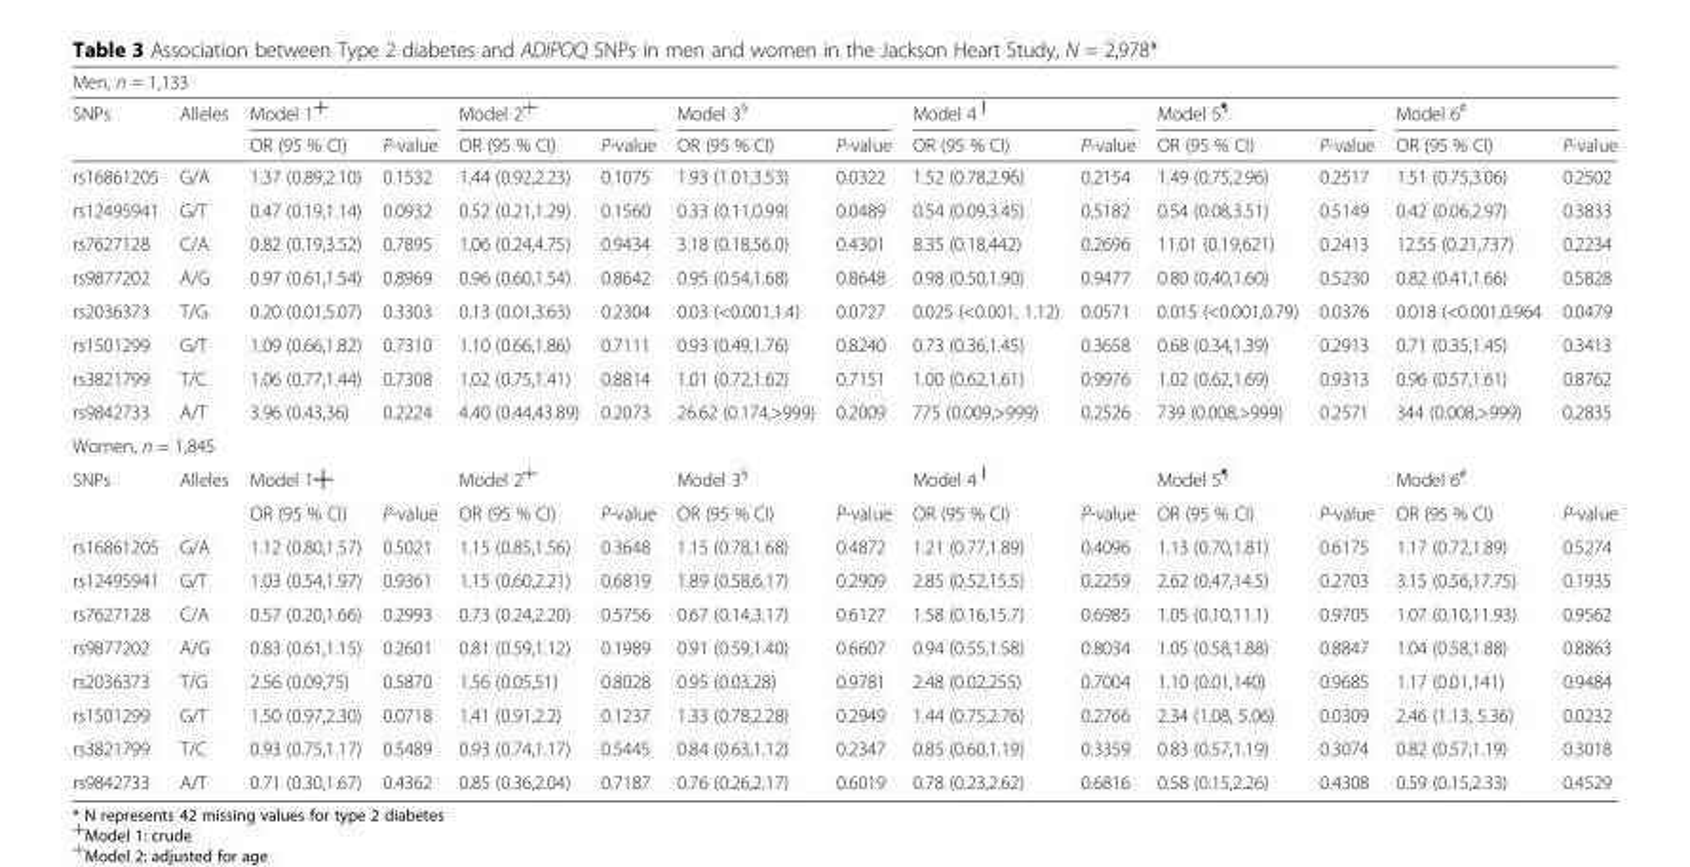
<table><thead><tr><td colspan="14">Men, n = 1,133</td></tr><tr><td rowspan="2">SNPs</td><td rowspan="2">Alleles</td><td colspan="2">Model 1<sup>┼</sup></td><td colspan="2">Model 2<sup>╪</sup></td><td colspan="2">Model 3<sup>§</sup></td><td colspan="2">Model 4<sup>║</sup></td><td colspan="2">Model 5<sup>¶</sup></td><td colspan="2">Model 6<sup>#</sup></td></tr><tr><td>OR (95 % CI)</td><td>P-value</td><td>OR (95 % CI)</td><td>P-value</td><td>OR (95 % CI)</td><td>P-value</td><td>OR (95 % CI)</td><td>P-value</td><td>OR (95 % CI)</td><td>P-value</td><td>OR (95 % CI)</td><td>P-value</td></tr></thead><tbody><tr><td>rs16861205</td><td>G/A</td><td>1.37 (0.89,2.10)</td><td>0.1532</td><td>1.44 (0.92,2.23)</td><td>0.1075</td><td>1.93 (1.01,3.53)</td><td>0.0322</td><td>1.52 (0.78,2.96)</td><td>0.2154</td><td>1.49 (0.75,2.96)</td><td>0.2517</td><td>1.51 (0.75,3.06)</td><td>0.2502</td></tr><tr><td>rs12495941</td><td>G/T</td><td>0.47 (0.19,1.14)</td><td>0.0932</td><td>0.52 (0.21,1.29)</td><td>0.1560</td><td>0.33 (0.11,0.99)</td><td>0.0489</td><td>0.54 (0.09,3.45)</td><td>0.5182</td><td>0.54 (0.08,3.51)</td><td>0.5149</td><td>0.42 (0.06,2.97)</td><td>0.3833</td></tr><tr><td>rs7627128</td><td>C/A</td><td>0.82 (0.19,3.52)</td><td>0.7895</td><td>1.06 (0.24,4.75)</td><td>0.9434</td><td>3.18 (0.18,56.0)</td><td>0.4301</td><td>8.35 (0.18,442)</td><td>0.2696</td><td>11.01 (0.19,621)</td><td>0.2413</td><td>12.55 (0.21,737)</td><td>0.2234</td></tr><tr><td>rs9877202</td><td>A/G</td><td>0.97 (0.61,1.54)</td><td>0.8969</td><td>0.96 (0.60,1.54)</td><td>0.8642</td><td>0.95 (0.54,1.68)</td><td>0.8648</td><td>0.98 (0.50,1.90)</td><td>0.9477</td><td>0.80 (0.40,1.60)</td><td>0.5230</td><td>0.82 (0.41,1.66)</td><td>0.5828</td></tr><tr><td>rs2036373</td><td>T/G</td><td>0.20 (0.01,5.07)</td><td>0.3303</td><td>0.13 (0.01,3.63)</td><td>0.2304</td><td>0.03 (&lt;0.001,1.4)</td><td>0.0727</td><td>0.025 (&lt;0.001, 1.12)</td><td>0.0571</td><td>0.015 (&lt;0.001,0.79)</td><td>0.0376</td><td>0.018 (&lt;0.001,0.964</td><td>0.0479</td></tr><tr><td>rs1501299</td><td>G/T</td><td>1.09 (0.66,1.82)</td><td>0.7310</td><td>1.10 (0.66,1.86)</td><td>0.7111</td><td>0.93 (0.49,1.76)</td><td>0.8240</td><td>0.73 (0.36,1.45)</td><td>0.3658</td><td>0.68 (0.34,1.39)</td><td>0.2913</td><td>0.71 (0.35,1.45)</td><td>0.3413</td></tr><tr><td>rs3821799</td><td>T/C</td><td>1.06 (0.77,1.44)</td><td>0.7308</td><td>1.02 (0.75,1.41)</td><td>0.8814</td><td>1.01 (0.72,1.62)</td><td>0.7151</td><td>1.00 (0.62,1.61)</td><td>0.9976</td><td>1.02 (0.62,1.69)</td><td>0.9313</td><td>0.96 (0.57,1.61)</td><td>0.8762</td></tr><tr><td>rs9842733</td><td>A/T</td><td>3.96 (0.43,36)</td><td>0.2224</td><td>4.40 (0.44,43.89)</td><td>0.2073</td><td>26.62 (0.174,&gt;999)</td><td>0.2009</td><td>775 (0.009,&gt;999)</td><td>0.2526</td><td>739 (0.008,&gt;999)</td><td>0.2571</td><td>344 (0.008,&gt;999)</td><td>0.2835</td></tr><tr><td colspan="14">Women, n = 1,845</td></tr><tr><td rowspan="2">SNPs</td><td>Alleles</td><td colspan="2">Model 1┼</td><td colspan="2">Model 2<sup>╪</sup></td><td colspan="2">Model 3<sup>§</sup></td><td colspan="2">Model 4<sup>║</sup></td><td colspan="2">Model 5<sup>¶</sup></td><td colspan="2">Model 6<sup>#</sup></td></tr><tr><td></td><td>OR (95 % CI)</td><td>P-value</td><td>OR (95 % CI)</td><td>P-value</td><td>OR (95 % CI)</td><td>P-value</td><td>OR (95 % CI)</td><td>P-value</td><td>OR (95 % CI)</td><td>P-value</td><td>OR (95 % CI)</td><td>P-value</td></tr><tr><td>rs16861205</td><td>G/A</td><td>1.12 (0.80,1.57)</td><td>0.5021</td><td>1.15 (0.85,1.56)</td><td>0.3648</td><td>1.15 (0.78,1.68)</td><td>0.4872</td><td>1.21 (0.77,1.89)</td><td>0.4096</td><td>1.13 (0.70,1.81)</td><td>0.6175</td><td>1.17 (0.72,1.89)</td><td>0.5274</td></tr><tr><td>rs12495941</td><td>G/T</td><td>1.03 (0.54,1.97)</td><td>0.9361</td><td>1.15 (0.60,2.21)</td><td>0.6819</td><td>1.89 (0.58,6.17)</td><td>0.2909</td><td>2.85 (0.52,15.5)</td><td>0.2259</td><td>2.62 (0.47,14.5)</td><td>0.2703</td><td>3.15 (0.56,17.75)</td><td>0.1935</td></tr><tr><td>rs7627128</td><td>C/A</td><td>0.57 (0.20,1.66)</td><td>0.2993</td><td>0.73 (0.24,2.20)</td><td>0.5756</td><td>0.67 (0.14,3.17)</td><td>0.6127</td><td>1.58 (0.16,15.7)</td><td>0.6985</td><td>1.05 (0.10,11.1)</td><td>0.9705</td><td>1.07 (0.10,11.93)</td><td>0.9562</td></tr><tr><td>rs9877202</td><td>A/G</td><td>0.83 (0.61,1.15)</td><td>0.2601</td><td>0.81 (0.59,1.12)</td><td>0.1989</td><td>0.91 (0.59,1.40)</td><td>0.6607</td><td>0.94 (0.55,1.58)</td><td>0.8034</td><td>1.05 (0.58,1.88)</td><td>0.8847</td><td>1.04 (0.58,1.88)</td><td>0.8863</td></tr><tr><td>rs2036373</td><td>T/G</td><td>2.56 (0.09,75)</td><td>0.5870</td><td>1.56 (0.05,51)</td><td>0.8028</td><td>0.95 (0.03,28)</td><td>0.9781</td><td>2.48 (0.02,255)</td><td>0.7004</td><td>1.10 (0.01,140)</td><td>0.9685</td><td>1.17 (0.01,141)</td><td>0.9484</td></tr><tr><td>rs1501299</td><td>G/T</td><td>1.50 (0.97,2.30)</td><td>0.0718</td><td>1.41 (0.91,2.2)</td><td>0.1237</td><td>1.33 (0.78,2.28)</td><td>0.2949</td><td>1.44 (0.75,2.76)</td><td>0.2766</td><td>2.34 (1.08, 5.06)</td><td>0.0309</td><td>2.46 (1.13, 5.36)</td><td>0.0232</td></tr><tr><td>rs3821799</td><td>T/C</td><td>0.93 (0.75,1.17)</td><td>0.5489</td><td>0.93 (0.74,1.17)</td><td>0.5445</td><td>0.84 (0.63,1.12)</td><td>0.2347</td><td>0.85 (0.60,1.19)</td><td>0.3359</td><td>0.83 (0.57,1.19)</td><td>0.3074</td><td>0.82 (0.57,1.19)</td><td>0.3018</td></tr><tr><td>rs9842733</td><td>A/T</td><td>0.71 (0.30,1.67)</td><td>0.4362</td><td>0.85 (0.36,2.04)</td><td>0.7187</td><td>0.76 (0.26,2.17)</td><td>0.6019</td><td>0.78 (0.23,2.62)</td><td>0.6816</td><td>0.58 (0.15,2.26)</td><td>0.4308</td><td>0.59 (0.15,2.33)</td><td>0.4529</td></tr></tbody></table>